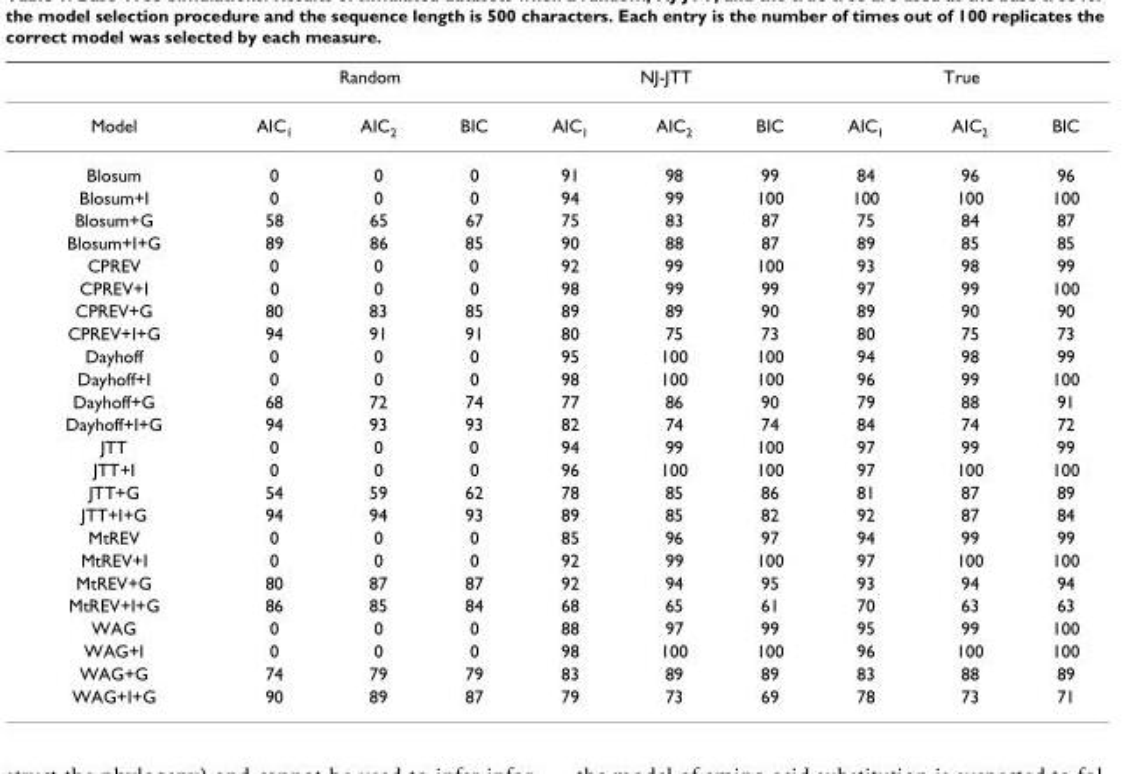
<table><thead><tr><td rowspan="2">Model</td><td colspan="3">Random</td><td colspan="3">NJ-JTT</td><td colspan="3">True</td></tr><tr><td>AIC<sub>1</sub></td><td>AIC<sub>2</sub></td><td>BIC</td><td>AIC<sub>1</sub></td><td>AIC<sub>2</sub></td><td>BIC</td><td>AIC<sub>1</sub></td><td>AIC<sub>2</sub></td><td>BIC</td></tr></thead><tbody><tr><td>Blosum</td><td>0</td><td>0</td><td>0</td><td>91</td><td>98</td><td>99</td><td>84</td><td>96</td><td>96</td></tr><tr><td>Blosum+I</td><td>0</td><td>0</td><td>0</td><td>94</td><td>99</td><td>100</td><td>100</td><td>100</td><td>100</td></tr><tr><td>Blosum+G</td><td>58</td><td>65</td><td>67</td><td>75</td><td>83</td><td>87</td><td>75</td><td>84</td><td>87</td></tr><tr><td>Blosum+I+G</td><td>89</td><td>86</td><td>85</td><td>90</td><td>88</td><td>87</td><td>89</td><td>85</td><td>85</td></tr><tr><td>CPREV</td><td>0</td><td>0</td><td>0</td><td>92</td><td>99</td><td>100</td><td>93</td><td>98</td><td>99</td></tr><tr><td>CPREV+I</td><td>0</td><td>0</td><td>0</td><td>98</td><td>99</td><td>99</td><td>97</td><td>99</td><td>100</td></tr><tr><td>CPREV+G</td><td>80</td><td>83</td><td>85</td><td>89</td><td>89</td><td>90</td><td>89</td><td>90</td><td>90</td></tr><tr><td>CPREV+I+G</td><td>94</td><td>91</td><td>91</td><td>80</td><td>75</td><td>73</td><td>80</td><td>75</td><td>73</td></tr><tr><td>Dayhoff</td><td>0</td><td>0</td><td>0</td><td>95</td><td>100</td><td>100</td><td>94</td><td>98</td><td>99</td></tr><tr><td>Dayhoff+I</td><td>0</td><td>0</td><td>0</td><td>98</td><td>100</td><td>100</td><td>96</td><td>99</td><td>100</td></tr><tr><td>Dayhoff+G</td><td>68</td><td>72</td><td>74</td><td>77</td><td>86</td><td>90</td><td>79</td><td>88</td><td>91</td></tr><tr><td>Dayhoff+I+G</td><td>94</td><td>93</td><td>93</td><td>82</td><td>74</td><td>74</td><td>84</td><td>74</td><td>72</td></tr><tr><td>JTT</td><td>0</td><td>0</td><td>0</td><td>94</td><td>99</td><td>100</td><td>97</td><td>99</td><td>99</td></tr><tr><td>JTT+I</td><td>0</td><td>0</td><td>0</td><td>96</td><td>100</td><td>100</td><td>97</td><td>100</td><td>100</td></tr><tr><td>JTT+G</td><td>54</td><td>59</td><td>62</td><td>78</td><td>85</td><td>86</td><td>81</td><td>87</td><td>89</td></tr><tr><td>JTT+I+G</td><td>94</td><td>94</td><td>93</td><td>89</td><td>85</td><td>82</td><td>92</td><td>87</td><td>84</td></tr><tr><td>MtREV</td><td>0</td><td>0</td><td>0</td><td>85</td><td>96</td><td>97</td><td>94</td><td>99</td><td>99</td></tr><tr><td>MtREV+I</td><td>0</td><td>0</td><td>0</td><td>92</td><td>99</td><td>100</td><td>97</td><td>100</td><td>100</td></tr><tr><td>MtREV+G</td><td>80</td><td>87</td><td>87</td><td>92</td><td>94</td><td>95</td><td>93</td><td>94</td><td>94</td></tr><tr><td>MtREV+I+G</td><td>86</td><td>85</td><td>84</td><td>68</td><td>65</td><td>61</td><td>70</td><td>63</td><td>63</td></tr><tr><td>WAG</td><td>0</td><td>0</td><td>0</td><td>88</td><td>97</td><td>99</td><td>95</td><td>99</td><td>100</td></tr><tr><td>WAG+I</td><td>0</td><td>0</td><td>0</td><td>98</td><td>100</td><td>100</td><td>96</td><td>100</td><td>100</td></tr><tr><td>WAG+G</td><td>74</td><td>79</td><td>79</td><td>83</td><td>89</td><td>89</td><td>83</td><td>88</td><td>89</td></tr><tr><td>WAG+I+G</td><td>90</td><td>89</td><td>87</td><td>79</td><td>73</td><td>69</td><td>78</td><td>73</td><td>71</td></tr></tbody></table>